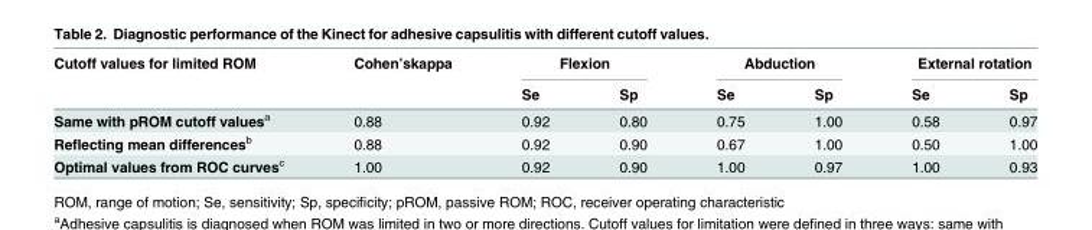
<table><thead><tr><td rowspan="2">Cutoff values for limited ROM</td><td rowspan="2">Cohen’skappa</td><td colspan="2">Flexion</td><td colspan="2">Abduction</td><td colspan="2">External rotation</td></tr><tr><td>Se</td><td>Sp</td><td>Se</td><td>Sp</td><td>Se</td><td>Sp</td></tr></thead><tbody><tr><td>Same with pROM cutoff values<sup>a</sup></td><td>0.88</td><td>0.92</td><td>0.80</td><td>0.75</td><td>1.00</td><td>0.58</td><td>0.97</td></tr><tr><td>Reflecting mean differences<sup>b</sup></td><td>0.88</td><td>0.92</td><td>0.90</td><td>0.67</td><td>1.00</td><td>0.50</td><td>1.00</td></tr><tr><td>Optimal values from ROC curves<sup>c</sup></td><td>1.00</td><td>0.92</td><td>0.90</td><td>1.00</td><td>0.97</td><td>1.00</td><td>0.93</td></tr></tbody></table>